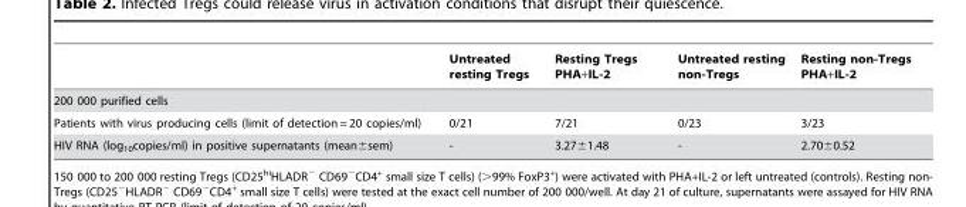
<table><thead><tr><td></td><td>Untreated resting Tregs</td><td>Resting Tregs PHA+IL-2</td><td>Untreated resting non-Tregs</td><td>Resting non-Tregs PHA+IL-2</td></tr></thead><tbody><tr><td colspan="5">200 000 purified cells</td></tr><tr><td>Patients with virus producing cells (limit of detection = 20 copies/ml)</td><td>0/21</td><td>7/21</td><td>0/23</td><td>3/23</td></tr><tr><td>HIV RNA (log<sub>10</sub>copies/ml) in positive supernatants (mean±sem)</td><td>-</td><td>3.27±1.48</td><td>-</td><td>2.70±0.52</td></tr></tbody></table>